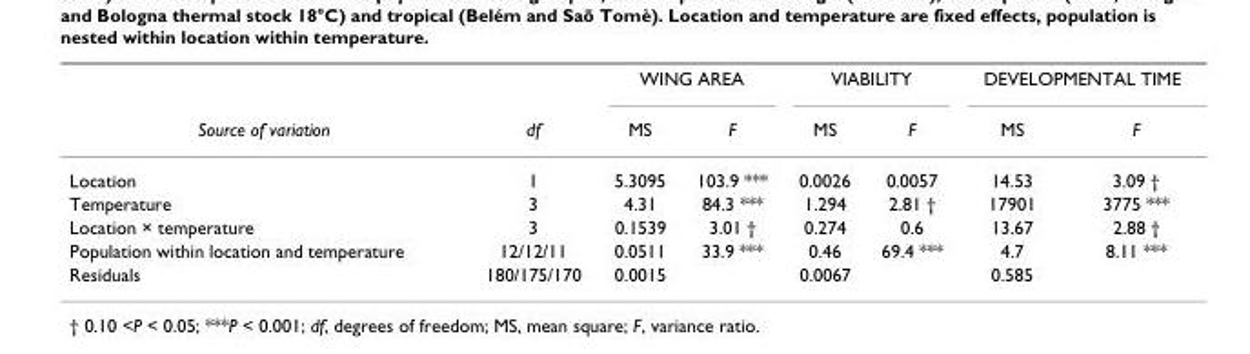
<table><thead><tr><td rowspan="2">Source of variation</td><td rowspan="2">df</td><td colspan="2">WING AREA</td><td colspan="2">VIABILITY</td><td colspan="2">DEVELOPMENTAL TIME</td></tr><tr><td>MS</td><td>F</td><td>MS</td><td>F</td><td>MS</td><td>F</td></tr></thead><tbody><tr><td>Location</td><td>1</td><td>5.3095</td><td>103.9 ***</td><td>0.0026</td><td>0.0057</td><td>14.53</td><td>3.09 †</td></tr><tr><td>Temperature</td><td>3</td><td>4.31</td><td>84.3 ***</td><td>1.294</td><td>2.81 †</td><td>17901</td><td>3775 ***</td></tr><tr><td>Location × temperature</td><td>3</td><td>0.1539</td><td>3.01 †</td><td>0.274</td><td>0.6</td><td>13.67</td><td>2.88 †</td></tr><tr><td>Population within location and temperature</td><td>12/12/11</td><td>0.0511</td><td>33.9 ***</td><td>0.46</td><td>69.4 ***</td><td>4.7</td><td>8.11 ***</td></tr><tr><td>Residuals</td><td>180/175/170</td><td>0.0015</td><td></td><td>0.0067</td><td></td><td>0.585</td><td></td></tr></tbody></table>